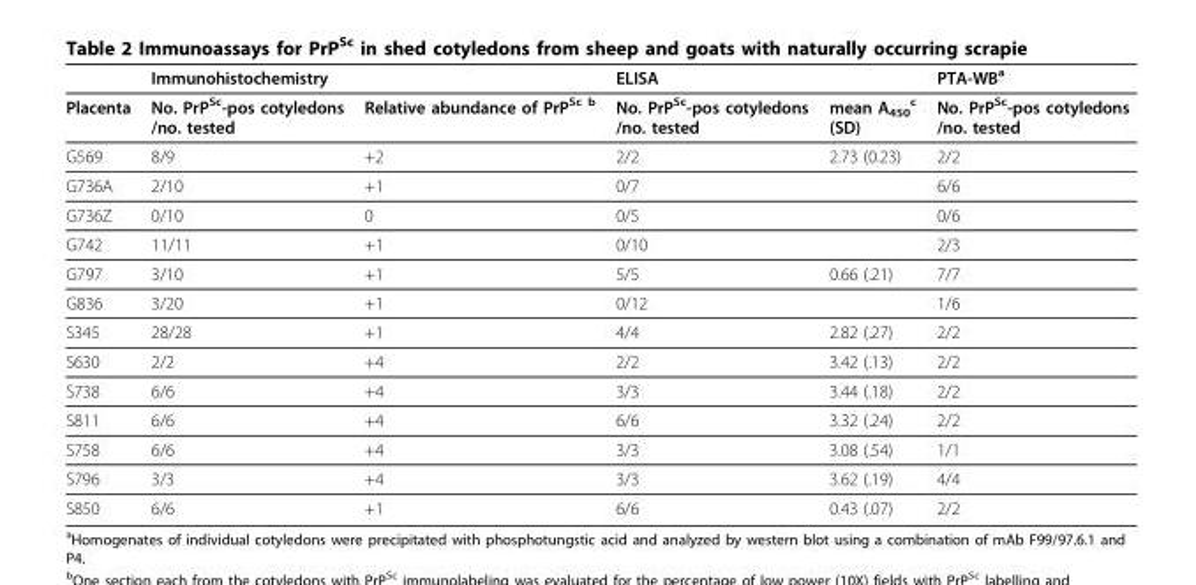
<table><thead><tr><td rowspan="2">Placenta</td><td colspan="2">Immunohistochemistry</td><td colspan="2">ELISA</td><td rowspan="2">PTA-WBa No. PrPSc-pos cotyledons /no. tested</td></tr><tr><td>No. PrPSc-pos cotyledons /no. tested</td><td>Relative abundance of PrPSc b</td><td>No. PrPSc-pos cotyledons /no. tested</td><td>mean A450 c (SD)</td></tr></thead><tbody><tr><td>G569</td><td>8/9</td><td>+2</td><td>2/2</td><td>2.73 (0.23)</td><td>2/2</td></tr><tr><td>G736A</td><td>2/10</td><td>+1</td><td>0/7</td><td></td><td>6/6</td></tr><tr><td>G736Z</td><td>0/10</td><td>0</td><td>0/5</td><td></td><td>0/6</td></tr><tr><td>G742</td><td>11/11</td><td>+1</td><td>0/10</td><td></td><td>2/3</td></tr><tr><td>G797</td><td>3/10</td><td>+1</td><td>5/5</td><td>0.66 (.21)</td><td>7/7</td></tr><tr><td>G836</td><td>3/20</td><td>+1</td><td>0/12</td><td></td><td>1/6</td></tr><tr><td>S345</td><td>28/28</td><td>+1</td><td>4/4</td><td>2.82 (.27)</td><td>2/2</td></tr><tr><td>S630</td><td>2/2</td><td>+4</td><td>2/2</td><td>3.42 (.13)</td><td>2/2</td></tr><tr><td>S738</td><td>6/6</td><td>+4</td><td>3/3</td><td>3.44 (.18)</td><td>2/2</td></tr><tr><td>S811</td><td>6/6</td><td>+4</td><td>6/6</td><td>3.32 (.24)</td><td>2/2</td></tr><tr><td>S758</td><td>6/6</td><td>+4</td><td>3/3</td><td>3.08 (.54)</td><td>1/1</td></tr><tr><td>S796</td><td>3/3</td><td>+4</td><td>3/3</td><td>3.62 (.19)</td><td>4/4</td></tr><tr><td>S850</td><td>6/6</td><td>+1</td><td>6/6</td><td>0.43 (.07)</td><td>2/2</td></tr></tbody></table>